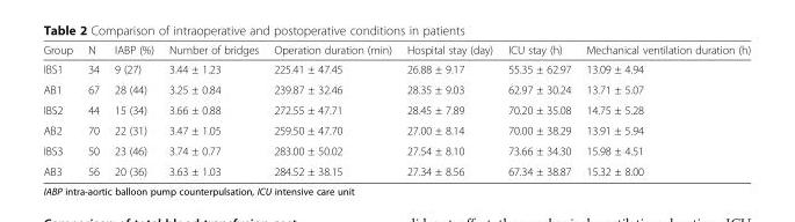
<table><thead><tr><td>Group</td><td>N</td><td>IABP (%)</td><td>Number of bridges</td><td>Operation duration (min)</td><td>Hospital stay (day)</td><td>ICU stay (h)</td><td>Mechanical ventilation duration (h)</td></tr></thead><tbody><tr><td>IBS1</td><td>34</td><td>9 (27)</td><td>3.44 ± 1.23</td><td>225.41 ± 47.45</td><td>26.88 ± 9.17</td><td>55.35 ± 62.97</td><td>13.09 ± 4.94</td></tr><tr><td>AB1</td><td>67</td><td>28 (44)</td><td>3.25 ± 0.84</td><td>239.87 ± 32.46</td><td>28.35 ± 9.03</td><td>62.97 ± 30.24</td><td>13.71 ± 5.07</td></tr><tr><td>IBS2</td><td>44</td><td>15 (34)</td><td>3.66 ± 0.88</td><td>272.55 ± 47.71</td><td>28.45 ± 7.89</td><td>70.20 ± 35.08</td><td>14.75 ± 5.28</td></tr><tr><td>AB2</td><td>70</td><td>22 (31)</td><td>3.47 ± 1.05</td><td>259.50 ± 47.70</td><td>27.00 ± 8.14</td><td>70.00 ± 38.29</td><td>13.91 ± 5.94</td></tr><tr><td>IBS3</td><td>50</td><td>23 (46)</td><td>3.74 ± 0.77</td><td>283.00 ± 50.02</td><td>27.54 ± 8.10</td><td>73.66 ± 34.30</td><td>15.98 ± 4.51</td></tr><tr><td>AB3</td><td>56</td><td>20 (36)</td><td>3.63 ± 1.03</td><td>284.52 ± 38.15</td><td>27.34 ± 8.56</td><td>67.34 ± 38.87</td><td>15.32 ± 8.00</td></tr></tbody></table>